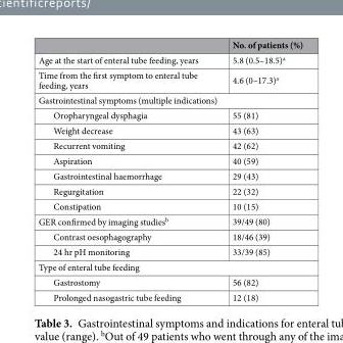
<table><thead><tr><td></td><td>No. of patients (%)</td></tr></thead><tbody><tr><td>Age at the start of enteral tube feeding, years</td><td>5.8 (0.5–18.5)<sup>a</sup></td></tr><tr><td>Time from the first symptom to enteral tube feeding, years</td><td>4.6 (0–17.3)<sup>a</sup></td></tr><tr><td colspan="2">Gastrointestinal symptoms (multiple indications)</td></tr><tr><td>Oropharyngeal dysphagia</td><td>55 (81)</td></tr><tr><td>Weight decrease</td><td>43 (63)</td></tr><tr><td>Recurrent vomiting</td><td>42 (62)</td></tr><tr><td>Aspiration</td><td>40 (59)</td></tr><tr><td>Gastrointestinal haemorrhage</td><td>29 (43)</td></tr><tr><td>Regurgitation</td><td>22 (32)</td></tr><tr><td>Constipation</td><td>10 (15)</td></tr><tr><td>GER confirmed by imaging studies<sup>b</sup></td><td>39/49 (80)</td></tr><tr><td>Contrast oesophagography</td><td>18/46 (39)</td></tr><tr><td>24 hr pH monitoring</td><td>33/39 (85)</td></tr><tr><td colspan="2">Type of enteral tube feeding</td></tr><tr><td>Gastrostomy</td><td>56 (82)</td></tr><tr><td>Prolonged nasogastric tube feeding</td><td>12 (18)</td></tr></tbody></table>